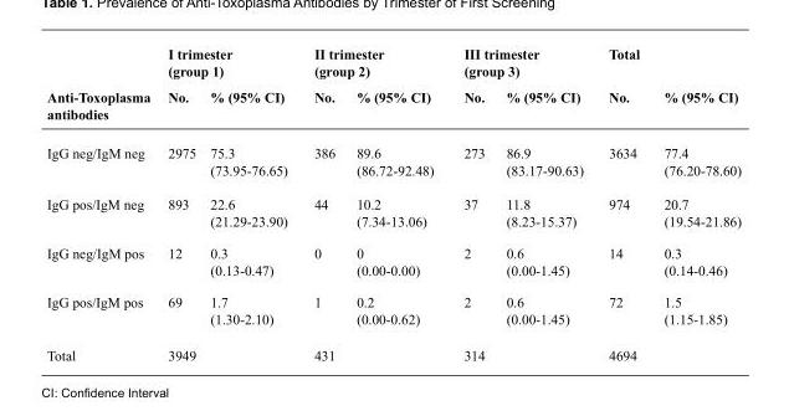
<table><thead><tr><td rowspan="2">Anti-Toxoplasma antibodies</td><td colspan="2">I trimester (group 1)</td><td colspan="2">II trimester (group 2)</td><td colspan="2">III trimester (group 3)</td><td colspan="2">Total</td></tr><tr><td>No.</td><td>% (95% CI)</td><td>No.</td><td>% (95% CI)</td><td>No.</td><td>% (95% CI)</td><td>No.</td><td>% (95% CI)</td></tr></thead><tbody><tr><td>IgG neg/IgM neg</td><td>2975</td><td>75.3 (73.95-76.65)</td><td>386</td><td>89.6 (86.72-92.48)</td><td>273</td><td>86.9 (83.17-90.63)</td><td>3634</td><td>77.4 (76.20-78.60)</td></tr><tr><td>IgG pos/IgM neg</td><td>893</td><td>22.6 (21.29-23.90)</td><td>44</td><td>10.2 (7.34-13.06)</td><td>37</td><td>11.8 (8.23-15.37)</td><td>974</td><td>20.7 (19.54-21.86)</td></tr><tr><td>IgG neg/IgM pos</td><td>12</td><td>0.3 (0.13-0.47)</td><td>0</td><td>0 (0.00-0.00)</td><td>2</td><td>0.6 (0.00-1.45)</td><td>14</td><td>0.3 (0.14-0.46)</td></tr><tr><td>IgG pos/IgM pos</td><td>69</td><td>1.7 (1.30-2.10)</td><td>1</td><td>0.2 (0.00-0.62)</td><td>2</td><td>0.6 (0.00-1.45)</td><td>72</td><td>1.5 (1.15-1.85)</td></tr><tr><td>Total</td><td>3949</td><td></td><td>431</td><td></td><td>314</td><td></td><td>4694</td><td></td></tr></tbody></table>